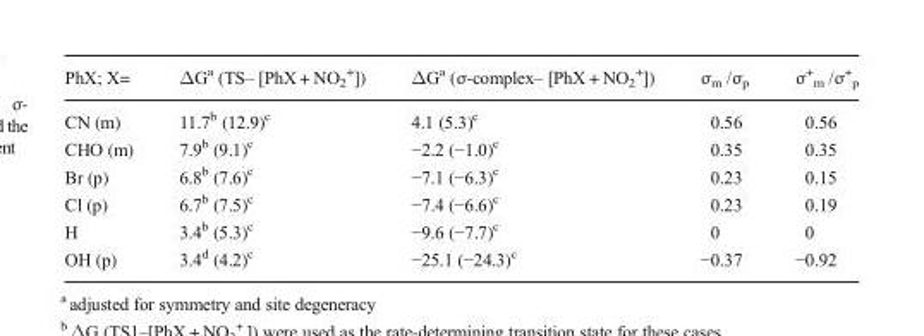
<table><thead><tr><td>PhX; X=</td><td>ΔG<sup>a</sup> (TS– [PhX + NO<sub>2</sub> <sup>+</sup>])</td><td>ΔG<sup>a</sup> (σ-complex– [PhX + NO<sub>2</sub> <sup>+</sup>])</td><td>σ<sub>m</sub> /σ<sub>p</sub></td><td>σ<sup>+</sup> <sub>m</sub> /σ<sup>+</sup> <sub>p</sub></td></tr></thead><tbody><tr><td>CN (m)</td><td>11.7<sup>b</sup> (12.9)<sup>c</sup></td><td>4.1 (5.3)<sup>c</sup></td><td>0.56</td><td>0.56</td></tr><tr><td>CHO (m)</td><td>7.9<sup>b</sup> (9.1)<sup>c</sup></td><td>−2.2 (−1.0)<sup>c</sup></td><td>0.35</td><td>0.35</td></tr><tr><td>Br (p)</td><td>6.8<sup>b</sup> (7.6)<sup>c</sup></td><td>−7.1 (−6.3)<sup>c</sup></td><td>0.23</td><td>0.15</td></tr><tr><td>Cl (p)</td><td>6.7<sup>b</sup> (7.5)<sup>c</sup></td><td>−7.4 (−6.6)<sup>c</sup></td><td>0.23</td><td>0.19</td></tr><tr><td>H</td><td>3.4<sup>b</sup> (5.3)<sup>c</sup></td><td>−9.6 (−7.7)<sup>c</sup></td><td>0</td><td>0</td></tr><tr><td>OH (p)</td><td>3.4<sup>d</sup> (4.2)<sup>c</sup></td><td>−25.1 (−24.3)<sup>c</sup></td><td>−0.37</td><td>−0.92</td></tr></tbody></table>